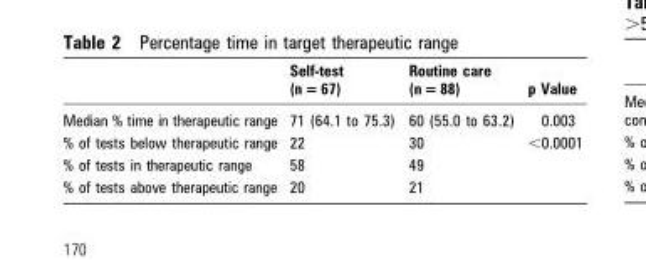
<table><thead><tr><td></td><td>Self-test (n = 67)</td><td>Routine care (n = 88)</td><td>p Value</td></tr></thead><tbody><tr><td>Median % time in therapeutic range</td><td>71 (64.1 to 75.3)</td><td>60 (55.0 to 63.2)</td><td>0.003</td></tr><tr><td>% of tests below therapeutic range</td><td>22</td><td>30</td><td rowspan="3">&lt;0.0001</td></tr><tr><td>% of tests in therapeutic range</td><td>58</td><td>49</td></tr><tr><td>% of tests above therapeutic range</td><td>20</td><td>21</td></tr></tbody></table>